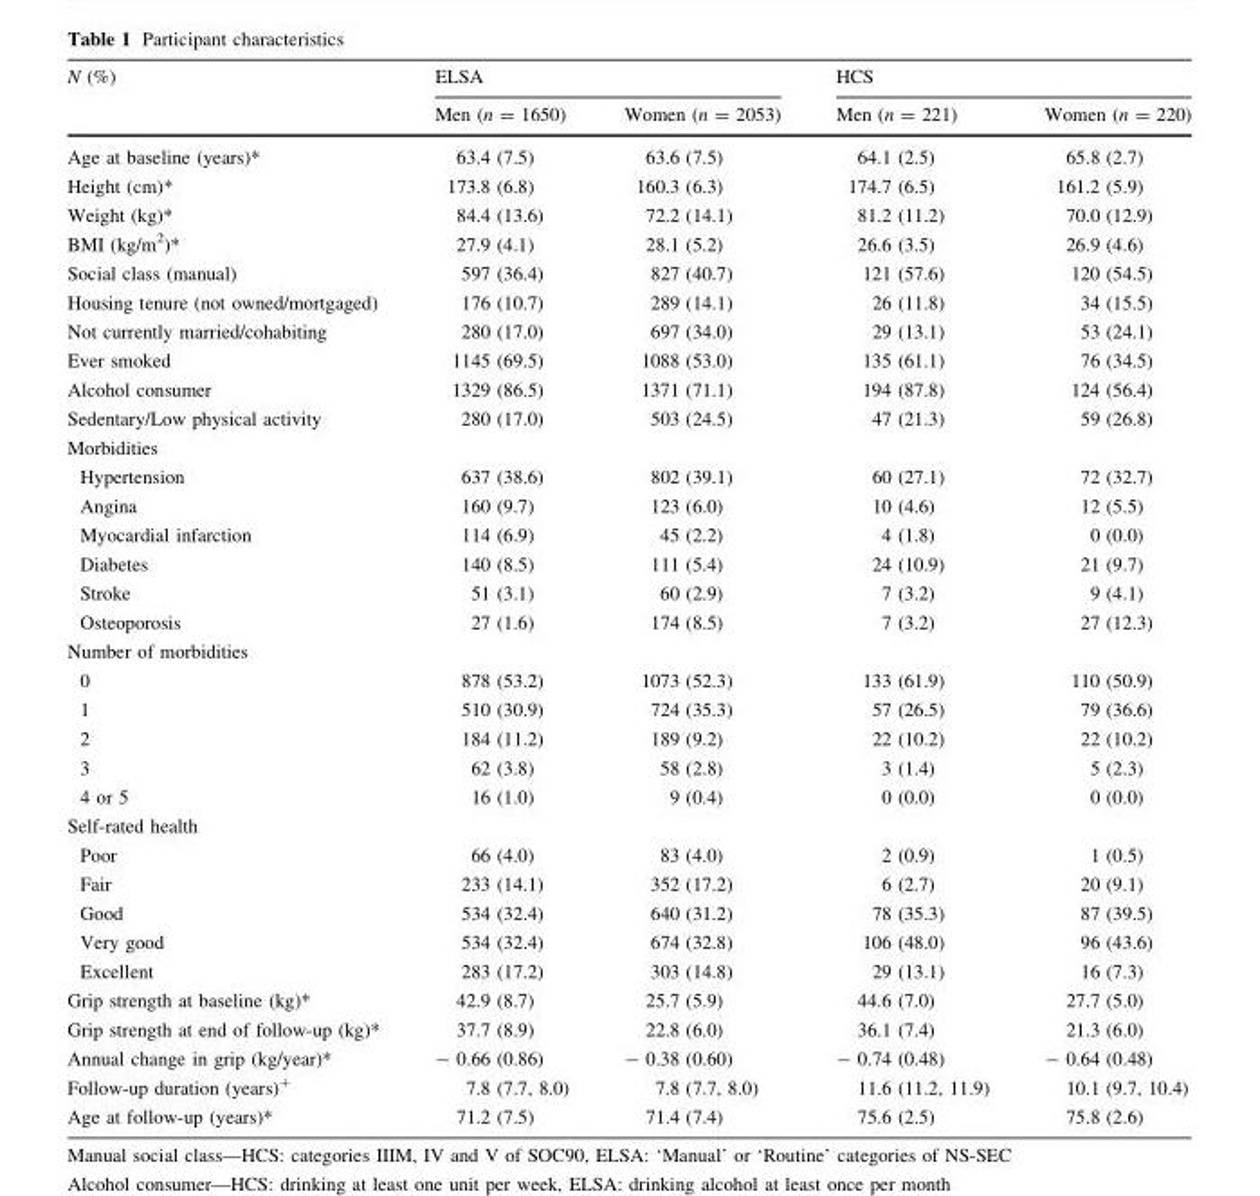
<table><thead><tr><td rowspan="2">N (%)</td><td colspan="2">ELSA</td><td colspan="2">HCS</td></tr><tr><td>Men (n = 1650)</td><td>Women (n = 2053)</td><td>Men (n = 221)</td><td>Women (n = 220)</td></tr></thead><tbody><tr><td>Age at baseline (years)*</td><td>63.4 (7.5)</td><td>63.6 (7.5)</td><td>64.1 (2.5)</td><td>65.8 (2.7)</td></tr><tr><td>Height (cm)*</td><td>173.8 (6.8)</td><td>160.3 (6.3)</td><td>174.7 (6.5)</td><td>161.2 (5.9)</td></tr><tr><td>Weight (kg)*</td><td>84.4 (13.6)</td><td>72.2 (14.1)</td><td>81.2 (11.2)</td><td>70.0 (12.9)</td></tr><tr><td>BMI (kg/m<sup>2</sup>)*</td><td>27.9 (4.1)</td><td>28.1 (5.2)</td><td>26.6 (3.5)</td><td>26.9 (4.6)</td></tr><tr><td>Social class (manual)</td><td>597 (36.4)</td><td>827 (40.7)</td><td>121 (57.6)</td><td>120 (54.5)</td></tr><tr><td>Housing tenure (not owned/mortgaged)</td><td>176 (10.7)</td><td>289 (14.1)</td><td>26 (11.8)</td><td>34 (15.5)</td></tr><tr><td>Not currently married/cohabiting</td><td>280 (17.0)</td><td>697 (34.0)</td><td>29 (13.1)</td><td>53 (24.1)</td></tr><tr><td>Ever smoked</td><td>1145 (69.5)</td><td>1088 (53.0)</td><td>135 (61.1)</td><td>76 (34.5)</td></tr><tr><td>Alcohol consumer</td><td>1329 (86.5)</td><td>1371 (71.1)</td><td>194 (87.8)</td><td>124 (56.4)</td></tr><tr><td>Sedentary/Low physical activity</td><td>280 (17.0)</td><td>503 (24.5)</td><td>47 (21.3)</td><td>59 (26.8)</td></tr><tr><td colspan="5">Morbidities</td></tr><tr><td>Hypertension</td><td>637 (38.6)</td><td>802 (39.1)</td><td>60 (27.1)</td><td>72 (32.7)</td></tr><tr><td>Angina</td><td>160 (9.7)</td><td>123 (6.0)</td><td>10 (4.6)</td><td>12 (5.5)</td></tr><tr><td>Myocardial infarction</td><td>114 (6.9)</td><td>45 (2.2)</td><td>4 (1.8)</td><td>0 (0.0)</td></tr><tr><td>Diabetes</td><td>140 (8.5)</td><td>111 (5.4)</td><td>24 (10.9)</td><td>21 (9.7)</td></tr><tr><td>Stroke</td><td>51 (3.1)</td><td>60 (2.9)</td><td>7 (3.2)</td><td>9 (4.1)</td></tr><tr><td>Osteoporosis</td><td>27 (1.6)</td><td>174 (8.5)</td><td>7 (3.2)</td><td>27 (12.3)</td></tr><tr><td colspan="5">Number of morbidities</td></tr><tr><td>0</td><td>878 (53.2)</td><td>1073 (52.3)</td><td>133 (61.9)</td><td>110 (50.9)</td></tr><tr><td>1</td><td>510 (30.9)</td><td>724 (35.3)</td><td>57 (26.5)</td><td>79 (36.6)</td></tr><tr><td>2</td><td>184 (11.2)</td><td>189 (9.2)</td><td>22 (10.2)</td><td>22 (10.2)</td></tr><tr><td>3</td><td>62 (3.8)</td><td>58 (2.8)</td><td>3 (1.4)</td><td>5 (2.3)</td></tr><tr><td>4 or 5</td><td>16 (1.0)</td><td>9 (0.4)</td><td>0 (0.0)</td><td>0 (0.0)</td></tr><tr><td colspan="5">Self-rated health</td></tr><tr><td>Poor</td><td>66 (4.0)</td><td>83 (4.0)</td><td>2 (0.9)</td><td>1 (0.5)</td></tr><tr><td>Fair</td><td>233 (14.1)</td><td>352 (17.2)</td><td>6 (2.7)</td><td>20 (9.1)</td></tr><tr><td>Good</td><td>534 (32.4)</td><td>640 (31.2)</td><td>78 (35.3)</td><td>87 (39.5)</td></tr><tr><td>Very good</td><td>534 (32.4)</td><td>674 (32.8)</td><td>106 (48.0)</td><td>96 (43.6)</td></tr><tr><td>Excellent</td><td>283 (17.2)</td><td>303 (14.8)</td><td>29 (13.1)</td><td>16 (7.3)</td></tr><tr><td>Grip strength at baseline (kg)*</td><td>42.9 (8.7)</td><td>25.7 (5.9)</td><td>44.6 (7.0)</td><td>27.7 (5.0)</td></tr><tr><td>Grip strength at end of follow-up (kg)*</td><td>37.7 (8.9)</td><td>22.8 (6.0)</td><td>36.1 (7.4)</td><td>21.3 (6.0)</td></tr><tr><td>Annual change in grip (kg/year)*</td><td>- 0.66 (0.86)</td><td>- 0.38 (0.60)</td><td>- 0.74 (0.48)</td><td>- 0.64 (0.48)</td></tr><tr><td>Follow-up duration (years)<sup>+</sup></td><td>7.8 (7.7, 8.0)</td><td>7.8 (7.7, 8.0)</td><td>11.6 (11.2, 11.9)</td><td>10.1 (9.7, 10.4)</td></tr><tr><td>Age at follow-up (years)*</td><td>71.2 (7.5)</td><td>71.4 (7.4)</td><td>75.6 (2.5)</td><td>75.8 (2.6)</td></tr></tbody></table>